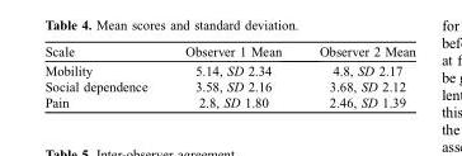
<table><thead><tr><td>Scale</td><td>Observer 1 Mean</td><td>Observer 2 Mean</td></tr></thead><tbody><tr><td>Mobility</td><td>5.14, SD 2.34</td><td>4.8, SD 2.17</td></tr><tr><td>Social dependence</td><td>3.58, SD 2.16</td><td>3.68, SD 2.12</td></tr><tr><td>Pain</td><td>2.8, SD 1.80</td><td>2.46, SD 1.39</td></tr></tbody></table>